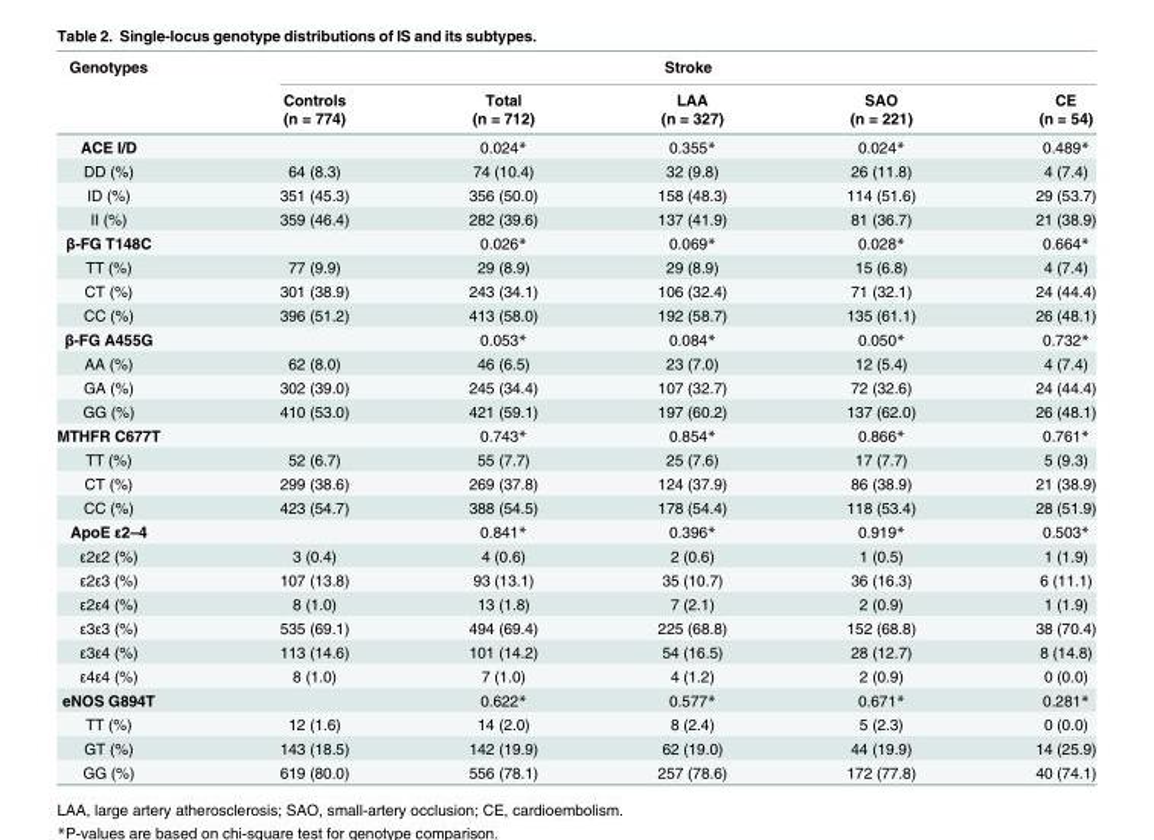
<table><thead><tr><td rowspan="3">Genotypes</td><td colspan="5">Stroke</td></tr><tr><td rowspan="2">Controls (n = 774)</td><td rowspan="2">Total (n = 712)</td><td rowspan="2">LAA (n = 327)</td><td rowspan="2">SAO (n = 221)</td><td rowspan="2">CE (n = 54)</td></tr><tr></tr></thead><tbody><tr><td>ACE I/D</td><td></td><td>0.024*</td><td>0.355*</td><td>0.024*</td><td>0.489*</td></tr><tr><td>DD (%)</td><td>64 (8.3)</td><td>74 (10.4)</td><td>32 (9.8)</td><td>26 (11.8)</td><td>4 (7.4)</td></tr><tr><td>ID (%)</td><td>351 (45.3)</td><td>356 (50.0)</td><td>158 (48.3)</td><td>114 (51.6)</td><td>29 (53.7)</td></tr><tr><td>II (%)</td><td>359 (46.4)</td><td>282 (39.6)</td><td>137 (41.9)</td><td>81 (36.7)</td><td>21 (38.9)</td></tr><tr><td>β-FG T148C</td><td></td><td>0.026*</td><td>0.069*</td><td>0.028*</td><td>0.664*</td></tr><tr><td>TT (%)</td><td>77 (9.9)</td><td>29 (8.9)</td><td>29 (8.9)</td><td>15 (6.8)</td><td>4 (7.4)</td></tr><tr><td>CT (%)</td><td>301 (38.9)</td><td>243 (34.1)</td><td>106 (32.4)</td><td>71 (32.1)</td><td>24 (44.4)</td></tr><tr><td>CC (%)</td><td>396 (51.2)</td><td>413 (58.0)</td><td>192 (58.7)</td><td>135 (61.1)</td><td>26 (48.1)</td></tr><tr><td>β-FG A455G</td><td></td><td>0.053*</td><td>0.084*</td><td>0.050*</td><td>0.732*</td></tr><tr><td>AA (%)</td><td>62 (8.0)</td><td>46 (6.5)</td><td>23 (7.0)</td><td>12 (5.4)</td><td>4 (7.4)</td></tr><tr><td>GA (%)</td><td>302 (39.0)</td><td>245 (34.4)</td><td>107 (32.7)</td><td>72 (32.6)</td><td>24 (44.4)</td></tr><tr><td>GG (%)</td><td>410 (53.0)</td><td>421 (59.1)</td><td>197 (60.2)</td><td>137 (62.0)</td><td>26 (48.1)</td></tr><tr><td>MTHFR C677T</td><td></td><td>0.743*</td><td>0.854*</td><td>0.866*</td><td>0.761*</td></tr><tr><td>TT (%)</td><td>52 (6.7)</td><td>55 (7.7)</td><td>25 (7.6)</td><td>17 (7.7)</td><td>5 (9.3)</td></tr><tr><td>CT (%)</td><td>299 (38.6)</td><td>269 (37.8)</td><td>124 (37.9)</td><td>86 (38.9)</td><td>21 (38.9)</td></tr><tr><td>CC (%)</td><td>423 (54.7)</td><td>388 (54.5)</td><td>178 (54.4)</td><td>118 (53.4)</td><td>28 (51.9)</td></tr><tr><td>ApoE ε2–4</td><td></td><td>0.841*</td><td>0.396*</td><td>0.919*</td><td>0.503*</td></tr><tr><td>ε2ε2 (%)</td><td>3 (0.4)</td><td>4 (0.6)</td><td>2 (0.6)</td><td>1 (0.5)</td><td>1 (1.9)</td></tr><tr><td>ε2ε3 (%)</td><td>107 (13.8)</td><td>93 (13.1)</td><td>35 (10.7)</td><td>36 (16.3)</td><td>6 (11.1)</td></tr><tr><td>ε2ε4 (%)</td><td>8 (1.0)</td><td>13 (1.8)</td><td>7 (2.1)</td><td>2 (0.9)</td><td>1 (1.9)</td></tr><tr><td>ε3ε3 (%)</td><td>535 (69.1)</td><td>494 (69.4)</td><td>225 (68.8)</td><td>152 (68.8)</td><td>38 (70.4)</td></tr><tr><td>ε3ε4 (%)</td><td>113 (14.6)</td><td>101 (14.2)</td><td>54 (16.5)</td><td>28 (12.7)</td><td>8 (14.8)</td></tr><tr><td>ε4ε4 (%)</td><td>8 (1.0)</td><td>7 (1.0)</td><td>4 (1.2)</td><td>2 (0.9)</td><td>0 (0.0)</td></tr><tr><td>eNOS G894T</td><td></td><td>0.622*</td><td>0.577*</td><td>0.671*</td><td>0.281*</td></tr><tr><td>TT (%)</td><td>12 (1.6)</td><td>14 (2.0)</td><td>8 (2.4)</td><td>5 (2.3)</td><td>0 (0.0)</td></tr><tr><td>GT (%)</td><td>143 (18.5)</td><td>142 (19.9)</td><td>62 (19.0)</td><td>44 (19.9)</td><td>14 (25.9)</td></tr><tr><td>GG (%)</td><td>619 (80.0)</td><td>556 (78.1)</td><td>257 (78.6)</td><td>172 (77.8)</td><td>40 (74.1)</td></tr></tbody></table>